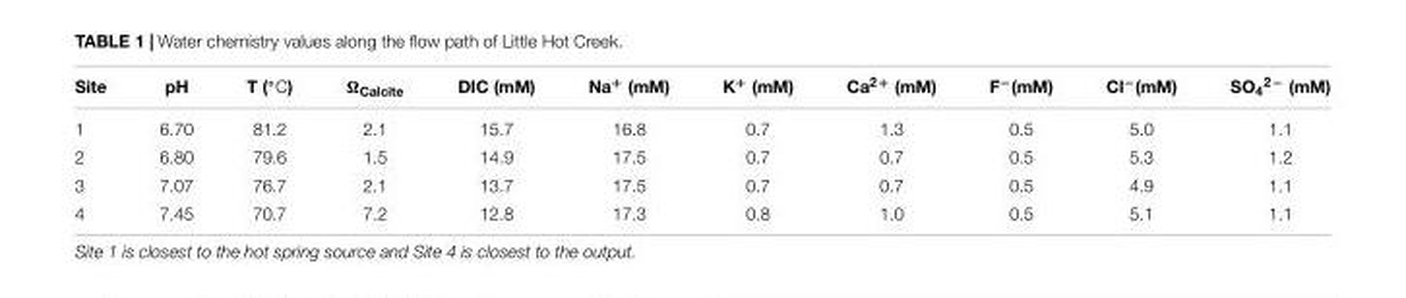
<table><thead><tr><td>Site</td><td>pH</td><td>T (◦C)</td><td>Ω<sub>Calcite</sub></td><td>DIC (mM)</td><td>Na<sup>+</sup> (mM)</td><td>K<sup>+</sup> (mM)</td><td>Ca<sup>2+</sup> (mM)</td><td>F<sup>−</sup>(mM)</td><td>Cl<sup>−</sup>(mM)</td><td>SO<sub>4</sub><sup>2−</sup> (mM)</td></tr></thead><tbody><tr><td>1</td><td>6.70</td><td>81.2</td><td>2.1</td><td>15.7</td><td>16.8</td><td>0.7</td><td>1.3</td><td>0.5</td><td>5.0</td><td>1.1</td></tr><tr><td>2</td><td>6.80</td><td>79.6</td><td>1.5</td><td>14.9</td><td>17.5</td><td>0.7</td><td>0.7</td><td>0.5</td><td>5.3</td><td>1.2</td></tr><tr><td>3</td><td>7.07</td><td>76.7</td><td>2.1</td><td>13.7</td><td>17.5</td><td>0.7</td><td>0.7</td><td>0.5</td><td>4.9</td><td>1.1</td></tr><tr><td>4</td><td>7.45</td><td>70.7</td><td>7.2</td><td>12.8</td><td>17.3</td><td>0.8</td><td>1.0</td><td>0.5</td><td>5.1</td><td>1.1</td></tr></tbody></table>